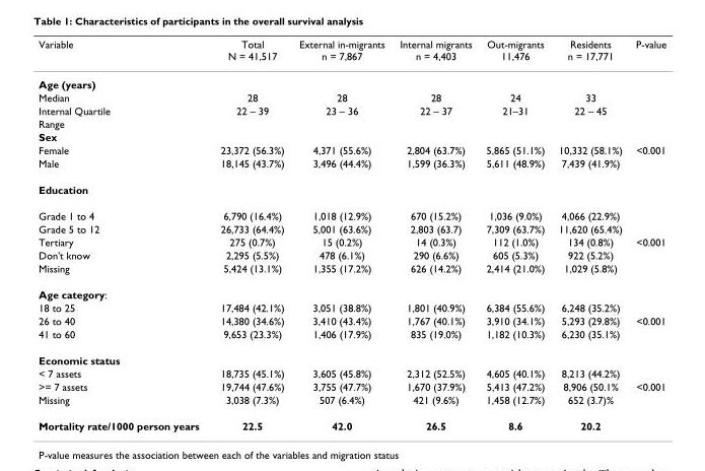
<table><thead><tr><td>Variable</td><td>Total N = 41,517</td><td>External in-migrants n = 7,867</td><td>Internal migrants n = 4,403</td><td>Out-migrants 11,476</td><td>Residents n = 17,771</td><td>P-value</td></tr></thead><tbody><tr><td colspan="7">Age (years)</td></tr><tr><td>Median</td><td>28</td><td>28</td><td>28</td><td>24</td><td>33</td><td></td></tr><tr><td>Internal Quartile</td><td>22 – 39</td><td>23 – 36</td><td>22 – 37</td><td>21–31</td><td>22 – 45</td><td></td></tr><tr><td colspan="7">Range</td></tr><tr><td colspan="7">Sex</td></tr><tr><td>Female</td><td>23,372 (56.3%)</td><td>4,371 (55.6%)</td><td>2,804 (63.7%)</td><td>5,865 (51.1%)</td><td>10,332 (58.1%)</td><td>&lt;0.001</td></tr><tr><td>Male</td><td>18,145 (43.7%)</td><td>3,496 (44.4%)</td><td>1,599 (36.3%)</td><td>5,611 (48.9%)</td><td>7,439 (41.9%)</td><td></td></tr><tr><td colspan="7">Education</td></tr><tr><td>Grade 1 to 4</td><td>6,790 (16.4%)</td><td>1,018 (12.9%)</td><td>670 (15.2%)</td><td>1,036 (9.0%)</td><td>4,066 (22.9%)</td><td></td></tr><tr><td>Grade 5 to 12</td><td>26,733 (64.4%)</td><td>5,001 (63.6%)</td><td>2,803 (63.7)</td><td>7,309 (63.7%)</td><td>11,620 (65.4%)</td><td></td></tr><tr><td>Tertiary</td><td>275 (0.7%)</td><td>15 (0.2%)</td><td>14 (0.3%)</td><td>112 (1.0%)</td><td>134 (0.8%)</td><td>&lt;0.001</td></tr><tr><td>Don&#x27;t know</td><td>2,295 (5.5%)</td><td>478 (6.1%)</td><td>290 (6.6%)</td><td>605 (5.3%)</td><td>922 (5.2%)</td><td></td></tr><tr><td>Missing</td><td>5,424 (13.1%)</td><td>1,355 (17.2%)</td><td>626 (14.2%)</td><td>2,414 (21.0%)</td><td>1,029 (5.8%)</td><td></td></tr><tr><td colspan="7">Age category:</td></tr><tr><td>18 to 25</td><td>17,484 (42.1%)</td><td>3,051 (38.8%)</td><td>1,801 (40.9%)</td><td>6,384 (55.6%)</td><td>6,248 (35.2%)</td><td></td></tr><tr><td>26 to 40</td><td>14,380 (34.6%)</td><td>3,410 (43.4%)</td><td>1,767 (40.1%)</td><td>3,910 (34.1%)</td><td>5,293 (29.8%)</td><td>&lt;0.001</td></tr><tr><td>41 to 60</td><td>9,653 (23.3%)</td><td>1,406 (17.9%)</td><td>835 (19.0%)</td><td>1,182 (10.3%)</td><td>6,230 (35.1%)</td><td></td></tr><tr><td colspan="7">Economic status</td></tr><tr><td>&lt; 7 assets</td><td>18,735 (45.1%)</td><td>3,605 (45.8%)</td><td>2,312 (52.5%)</td><td>4,605 (40.1%)</td><td>8,213 (44.2%)</td><td></td></tr><tr><td>&gt;= 7 assets</td><td>19,744 (47.6%)</td><td>3,755 (47.7%)</td><td>1,670 (37.9%)</td><td>5,413 (47.2%)</td><td>8,906 (50.1%</td><td>&lt;0.001</td></tr><tr><td>Missing</td><td>3,038 (7.3%)</td><td>507 (6.4%)</td><td>421 (9.6%)</td><td>1,458 (12.7%)</td><td>652 (3.7)%</td><td></td></tr><tr><td>Mortality rate/1000 person years</td><td>22.5</td><td>42.0</td><td>26.5</td><td>8.6</td><td>20.2</td><td></td></tr></tbody></table>